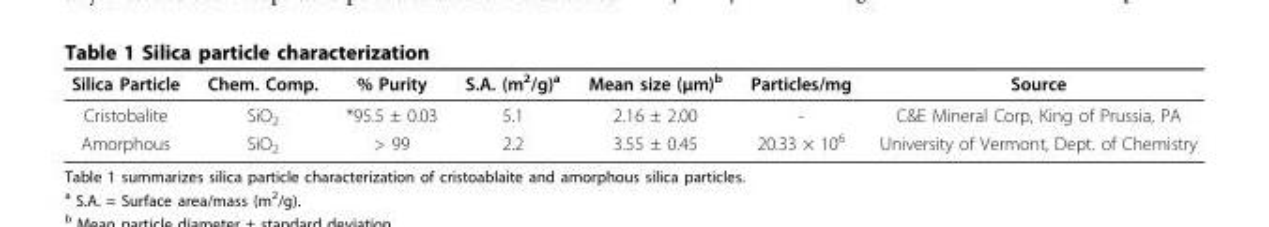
<table><thead><tr><td>Silica Particle</td><td>Chem. Comp.</td><td>% Purity</td><td>S.A. (m<sup>2</sup>/g)<sup>a</sup></td><td>Mean size (μm)<sup>b</sup></td><td>Particles/mg</td><td>Source</td></tr></thead><tbody><tr><td>Cristobalite</td><td>SiO<sub>2</sub></td><td>*95.5 ± 0.03</td><td>5.1</td><td>2.16 ± 2.00</td><td>-</td><td>C&amp;E Mineral Corp, King of Prussia, PA</td></tr><tr><td>Amorphous</td><td>SiO<sub>2</sub></td><td>&gt; 99</td><td>2.2</td><td>3.55 ± 0.45</td><td>20.33 × 10<sup>6</sup></td><td>University of Vermont, Dept. of Chemistry</td></tr></tbody></table>